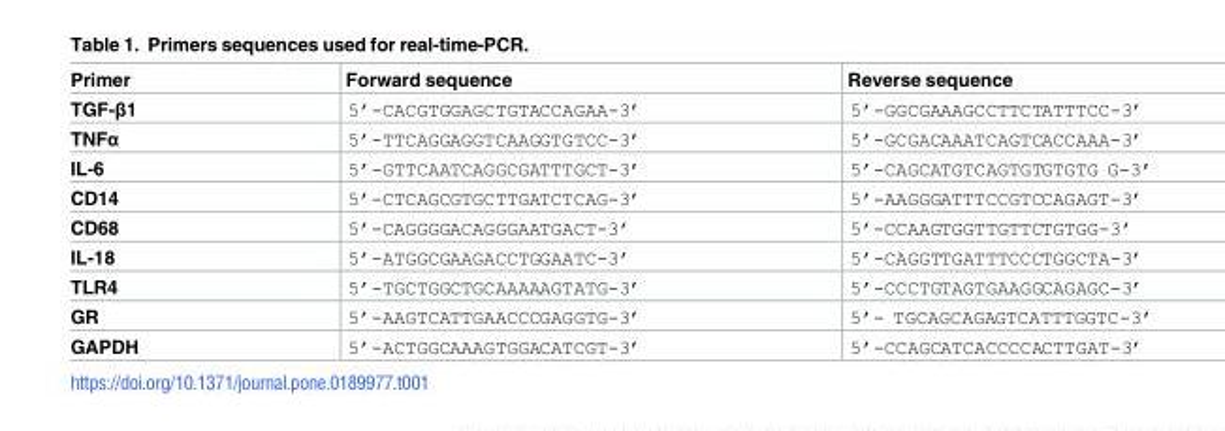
<table><thead><tr><td>Primer</td><td>Forward sequence</td><td>Reverse sequence</td></tr></thead><tbody><tr><td>TGF-β1</td><td>5’-CACGTGGAGCTGTACCAGAA-3’</td><td>5’-GGCGAAAGCCTTCTATTTCC-3’</td></tr><tr><td>TNFα</td><td>5’-TTCAGGAGGTCAAGGTGTCC-3’</td><td>5’-GCGACAAATCAGTCACCAAA-3’</td></tr><tr><td>IL-6</td><td>5’-GTTCAATCAGGCGATTTGCT-3’</td><td>5’-CAGCATGTCAGTGTGTGTG G-3’</td></tr><tr><td>CD14</td><td>5’-CTCAGCGTGCTTGATCTCAG-3’</td><td>5’-AAGGGATTTCCGTCCAGAGT-3’</td></tr><tr><td>CD68</td><td>5’-CAGGGGACAGGGAATGACT-3’</td><td>5’-CCAAGTGGTTGTTCTGTGG-3’</td></tr><tr><td>IL-18</td><td>5’-ATGGCGAAGACCTGGAATC-3’</td><td>5’-CAGGTTGATTTCCCTGGCTA-3’</td></tr><tr><td>TLR4</td><td>5’-TGCTGGCTGCAAAAAGTATG-3’</td><td>5’-CCCTGTAGTGAAGGCAGAGC-3’</td></tr><tr><td>GR</td><td>5’-AAGTCATTGAACCCGAGGTG-3’</td><td>5’- TGCAGCAGAGTCATTTGGTC-3’</td></tr><tr><td>GAPDH</td><td>5’-ACTGGCAAAGTGGACATCGT-3’</td><td>5’-CCAGCATCACCCCACTTGAT-3’</td></tr></tbody></table>